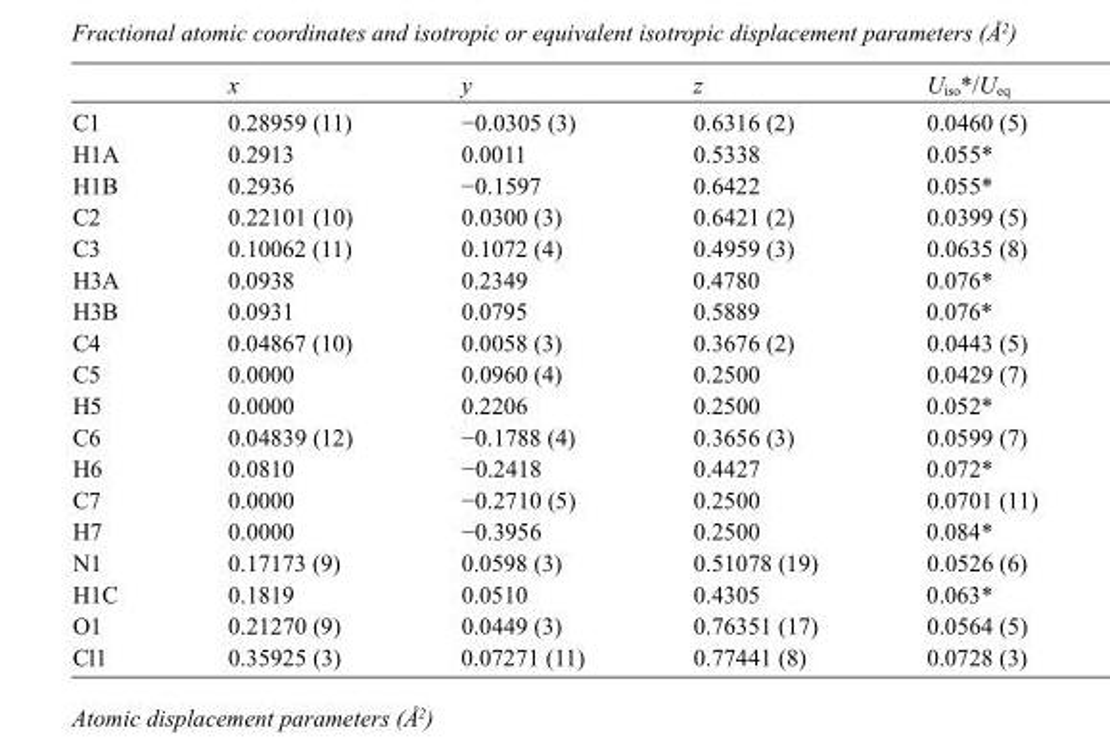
<table><thead><tr><td></td><td>x</td><td>y</td><td>z</td><td>U<sub>iso</sub>*/U<sub>eq</sub></td></tr></thead><tbody><tr><td>C1</td><td>0.28959 (11)</td><td>−0.0305 (3)</td><td>0.6316 (2)</td><td>0.0460 (5)</td></tr><tr><td>H1A</td><td>0.2913</td><td>0.0011</td><td>0.5338</td><td>0.055*</td></tr><tr><td>H1B</td><td>0.2936</td><td>−0.1597</td><td>0.6422</td><td>0.055*</td></tr><tr><td>C2</td><td>0.22101 (10)</td><td>0.0300 (3)</td><td>0.6421 (2)</td><td>0.0399 (5)</td></tr><tr><td>C3</td><td>0.10062 (11)</td><td>0.1072 (4)</td><td>0.4959 (3)</td><td>0.0635 (8)</td></tr><tr><td>H3A</td><td>0.0938</td><td>0.2349</td><td>0.4780</td><td>0.076*</td></tr><tr><td>H3B</td><td>0.0931</td><td>0.0795</td><td>0.5889</td><td>0.076*</td></tr><tr><td>C4</td><td>0.04867 (10)</td><td>0.0058 (3)</td><td>0.3676 (2)</td><td>0.0443 (5)</td></tr><tr><td>C5</td><td>0.0000</td><td>0.0960 (4)</td><td>0.2500</td><td>0.0429 (7)</td></tr><tr><td>H5</td><td>0.0000</td><td>0.2206</td><td>0.2500</td><td>0.052*</td></tr><tr><td>C6</td><td>0.04839 (12)</td><td>−0.1788 (4)</td><td>0.3656 (3)</td><td>0.0599 (7)</td></tr><tr><td>H6</td><td>0.0810</td><td>−0.2418</td><td>0.4427</td><td>0.072*</td></tr><tr><td>C7</td><td>0.0000</td><td>−0.2710 (5)</td><td>0.2500</td><td>0.0701 (11)</td></tr><tr><td>H7</td><td>0.0000</td><td>−0.3956</td><td>0.2500</td><td>0.084*</td></tr><tr><td>N1</td><td>0.17173 (9)</td><td>0.0598 (3)</td><td>0.51078 (19)</td><td>0.0526 (6)</td></tr><tr><td>H1C</td><td>0.1819</td><td>0.0510</td><td>0.4305</td><td>0.063*</td></tr><tr><td>O1</td><td>0.21270 (9)</td><td>0.0449 (3)</td><td>0.76351 (17)</td><td>0.0564 (5)</td></tr><tr><td>Cl1</td><td>0.35925 (3)</td><td>0.07271 (11)</td><td>0.77441 (8)</td><td>0.0728 (3)</td></tr></tbody></table>